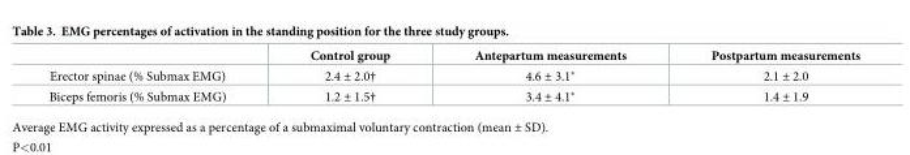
<table><thead><tr><td></td><td>Control group</td><td>Antepartum measurements</td><td>Postpartum measurements</td></tr></thead><tbody><tr><td>Erector spinae (% Submax EMG)</td><td>2.4 ± 2.0†</td><td>4.6 ± 3.1*</td><td>2.1 ± 2.0</td></tr><tr><td>Biceps femoris (% Submax EMG)</td><td>1.2 ± 1.5†</td><td>3.4 ± 4.1*</td><td>1.4 ± 1.9</td></tr></tbody></table>